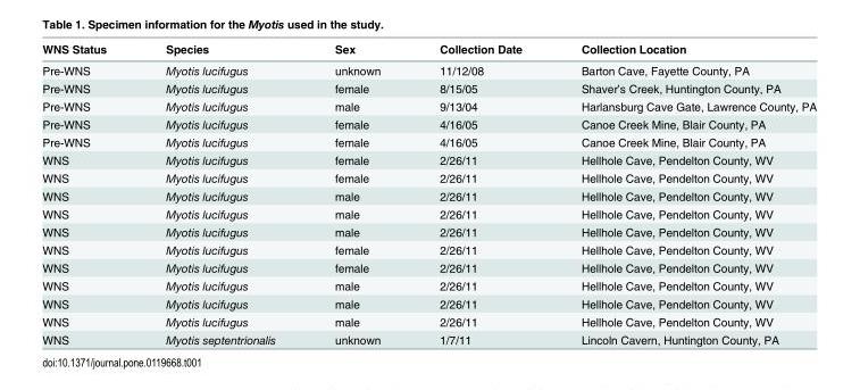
<table><thead><tr><td>WNS Status</td><td>Species</td><td>Sex</td><td>Collection Date</td><td>Collection Location</td></tr></thead><tbody><tr><td>Pre-WNS</td><td>Myotis lucifugus</td><td>unknown</td><td>11/12/08</td><td>Barton Cave, Fayette County, PA</td></tr><tr><td>Pre-WNS</td><td>Myotis lucifugus</td><td>female</td><td>8/15/05</td><td>Shaver’s Creek, Huntington County, PA</td></tr><tr><td>Pre-WNS</td><td>Myotis lucifugus</td><td>male</td><td>9/13/04</td><td>Harlansburg Cave Gate, Lawrence County, PA</td></tr><tr><td>Pre-WNS</td><td>Myotis lucifugus</td><td>female</td><td>4/16/05</td><td>Canoe Creek Mine, Blair County, PA</td></tr><tr><td>Pre-WNS</td><td>Myotis lucifugus</td><td>female</td><td>4/16/05</td><td>Canoe Creek Mine, Blair County, PA</td></tr><tr><td>WNS</td><td>Myotis lucifugus</td><td>female</td><td>2/26/11</td><td>Hellhole Cave, Pendelton County, WV</td></tr><tr><td>WNS</td><td>Myotis lucifugus</td><td>female</td><td>2/26/11</td><td>Hellhole Cave, Pendelton County, WV</td></tr><tr><td>WNS</td><td>Myotis lucifugus</td><td>male</td><td>2/26/11</td><td>Hellhole Cave, Pendelton County, WV</td></tr><tr><td>WNS</td><td>Myotis lucifugus</td><td>male</td><td>2/26/11</td><td>Hellhole Cave, Pendelton County, WV</td></tr><tr><td>WNS</td><td>Myotis lucifugus</td><td>male</td><td>2/26/11</td><td>Hellhole Cave, Pendelton County, WV</td></tr><tr><td>WNS</td><td>Myotis lucifugus</td><td>female</td><td>2/26/11</td><td>Hellhole Cave, Pendelton County, WV</td></tr><tr><td>WNS</td><td>Myotis lucifugus</td><td>female</td><td>2/26/11</td><td>Hellhole Cave, Pendelton County, WV</td></tr><tr><td>WNS</td><td>Myotis lucifugus</td><td>male</td><td>2/26/11</td><td>Hellhole Cave, Pendelton County, WV</td></tr><tr><td>WNS</td><td>Myotis lucifugus</td><td>male</td><td>2/26/11</td><td>Hellhole Cave, Pendelton County, WV</td></tr><tr><td>WNS</td><td>Myotis lucifugus</td><td>male</td><td>2/26/11</td><td>Hellhole Cave, Pendelton County, WV</td></tr><tr><td>WNS</td><td>Myotis septentrionalis</td><td>unknown</td><td>1/7/11</td><td>Lincoln Cavern, Huntington County, PA</td></tr></tbody></table>